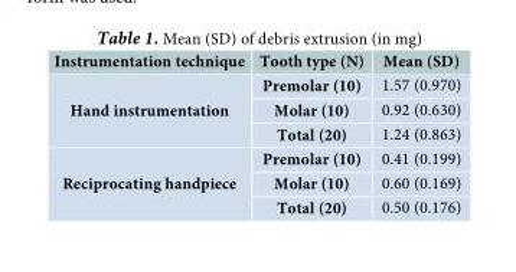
<table><thead><tr><td>Instrumentation technique</td><td>Tooth type (N)</td><td>Mean (SD)</td></tr></thead><tbody><tr><td rowspan="3">Hand instrumentation</td><td>Premolar (10)</td><td>1.57 (0.970)</td></tr><tr><td>Molar (10)</td><td>0.92 (0.630)</td></tr><tr><td>Total (20)</td><td>1.24 (0.863)</td></tr><tr><td rowspan="3">Reciprocating handpiece</td><td>Premolar (10)</td><td>0.41 (0.199)</td></tr><tr><td>Molar (10)</td><td>0.60 (0.169)</td></tr><tr><td>Total (20)</td><td>0.50 (0.176)</td></tr></tbody></table>